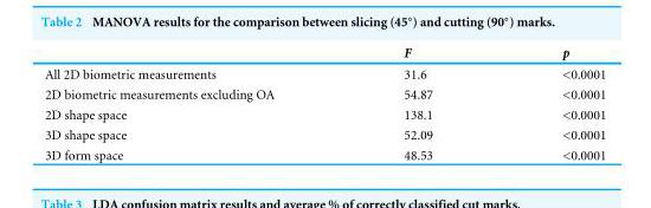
<table><thead><tr><td></td><td>F</td><td>p</td></tr></thead><tbody><tr><td>All 2D biometric measurements</td><td>31.6</td><td>&lt;0.0001</td></tr><tr><td>2D biometric measurements excluding OA</td><td>54.87</td><td>&lt;0.0001</td></tr><tr><td>2D shape space</td><td>138.1</td><td>&lt;0.0001</td></tr><tr><td>3D shape space</td><td>52.09</td><td>&lt;0.0001</td></tr><tr><td>3D form space</td><td>48.53</td><td>&lt;0.0001</td></tr></tbody></table>